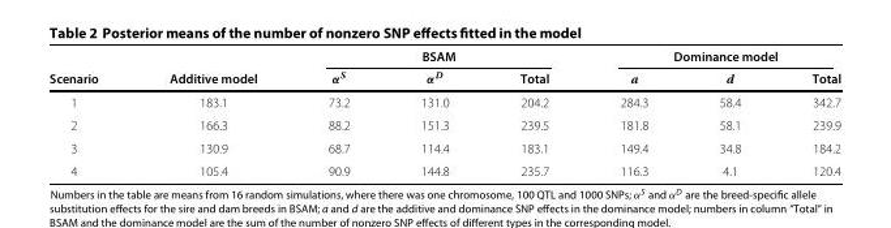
<table><thead><tr><td rowspan="2">Scenario</td><td rowspan="2">Additive model</td><td colspan="3">BSAM</td><td colspan="3">Dominance model</td></tr><tr><td>α<sup>S</sup></td><td>α<sup>D</sup></td><td>Total</td><td>a</td><td>d</td><td>Total</td></tr></thead><tbody><tr><td>1</td><td>183.1</td><td>73.2</td><td>131.0</td><td>204.2</td><td>284.3</td><td>58.4</td><td>342.7</td></tr><tr><td>2</td><td>166.3</td><td>88.2</td><td>151.3</td><td>239.5</td><td>181.8</td><td>58.1</td><td>239.9</td></tr><tr><td>3</td><td>130.9</td><td>68.7</td><td>114.4</td><td>183.1</td><td>149.4</td><td>34.8</td><td>184.2</td></tr><tr><td>4</td><td>105.4</td><td>90.9</td><td>144.8</td><td>235.7</td><td>116.3</td><td>4.1</td><td>120.4</td></tr></tbody></table>